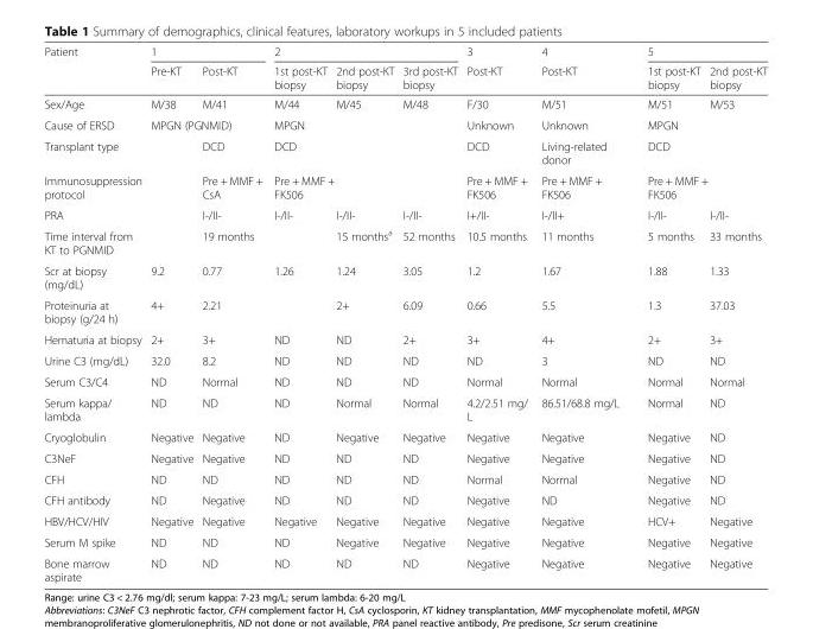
<table><thead><tr><td rowspan="2">Patient</td><td colspan="2">1</td><td colspan="3">2</td><td rowspan="2">3 Post-KT</td><td rowspan="2">4 Post-KT</td><td colspan="2">5</td></tr><tr><td>Pre-KT</td><td>Post-KT</td><td>1st post-KT biopsy</td><td>2nd post-KT biopsy</td><td>3rd post-KT biopsy</td><td>1st post-KT biopsy</td><td>2nd post-KT biopsy</td></tr></thead><tbody><tr><td>Sex/Age</td><td>M/38</td><td>M/41</td><td>M/44</td><td>M/45</td><td>M/48</td><td>F/30</td><td>M/51</td><td>M/51</td><td>M/53</td></tr><tr><td>Cause of ERSD</td><td colspan="2">MPGN (PGNMID)</td><td colspan="3">MPGN</td><td>Unknown</td><td>Unknown</td><td colspan="2">MPGN</td></tr><tr><td>Transplant type</td><td></td><td>DCD</td><td colspan="3">DCD</td><td>DCD</td><td>Living-related donor</td><td colspan="2">DCD</td></tr><tr><td>Immunosuppression protocol</td><td></td><td>Pre + MMF + CsA</td><td colspan="3">Pre + MMF + FK506</td><td>Pre + MMF + FK506</td><td>Pre + MMF + FK506</td><td colspan="2">Pre + MMF + FK506</td></tr><tr><td>PRA</td><td></td><td>I-/II-</td><td>I-/II-</td><td>I-/II-</td><td>I-/II-</td><td>I+/II-</td><td>I-/II+</td><td>I-/II-</td><td>I-/II-</td></tr><tr><td>Time interval from KT to PGNMID</td><td></td><td>19 months</td><td></td><td>15 months<sup>a</sup></td><td>52 months</td><td>10.5 months</td><td>11 months</td><td>5 months</td><td>33 months</td></tr><tr><td>Scr at biopsy (mg/dL)</td><td>9.2</td><td>0.77</td><td>1.26</td><td>1.24</td><td>3.05</td><td>1.2</td><td>1.67</td><td>1.88</td><td>1.33</td></tr><tr><td>Proteinuria at biopsy (g/24 h)</td><td>4+</td><td>2.21</td><td></td><td>2+</td><td>6.09</td><td>0.66</td><td>5.5</td><td>1.3</td><td>37.03</td></tr><tr><td>Hematuria at biopsy</td><td>2+</td><td>3+</td><td>ND</td><td>ND</td><td>2+</td><td>3+</td><td>4+</td><td>2+</td><td>3+</td></tr><tr><td>Urine C3 (mg/dL)</td><td>32.0</td><td>8.2</td><td>ND</td><td>ND</td><td>ND</td><td>ND</td><td>3</td><td>ND</td><td>ND</td></tr><tr><td>Serum C3/C4</td><td>ND</td><td>Normal</td><td>ND</td><td>ND</td><td>ND</td><td>Normal</td><td>Normal</td><td>Normal</td><td>Normal</td></tr><tr><td>Serum kappa/ lambda</td><td>ND</td><td>ND</td><td>ND</td><td>Normal</td><td>Normal</td><td>4.2/2.51 mg/ L</td><td>86.51/68.8 mg/L</td><td>Normal</td><td>ND</td></tr><tr><td>Cryoglobulin</td><td>Negative</td><td>Negative</td><td>ND</td><td>Negative</td><td>Negative</td><td>Negative</td><td>Negative</td><td>Negative</td><td>ND</td></tr><tr><td>C3NeF</td><td>Negative</td><td>Negative</td><td>ND</td><td>ND</td><td>ND</td><td>Negative</td><td>Negative</td><td>Negative</td><td>ND</td></tr><tr><td>CFH</td><td>ND</td><td>ND</td><td>ND</td><td>ND</td><td>ND</td><td>Normal</td><td>Normal</td><td>Negative</td><td>ND</td></tr><tr><td>CFH antibody</td><td>ND</td><td>Negative</td><td>ND</td><td>ND</td><td>ND</td><td>Negative</td><td>ND</td><td>Negative</td><td>ND</td></tr><tr><td>HBV/HCV/HIV</td><td>Negative</td><td>Negative</td><td>Negative</td><td>Negative</td><td>Negative</td><td>Negative</td><td>Negative</td><td>HCV+</td><td>Negative</td></tr><tr><td>Serum M spike</td><td>ND</td><td>ND</td><td>ND</td><td>Negative</td><td>Negative</td><td>Negative</td><td>Negative</td><td>Negative</td><td>Negative</td></tr><tr><td>Bone marrow aspirate</td><td>ND</td><td>ND</td><td>ND</td><td>ND</td><td>ND</td><td>Negative</td><td>Negative</td><td>Negative</td><td>Negative</td></tr></tbody></table>